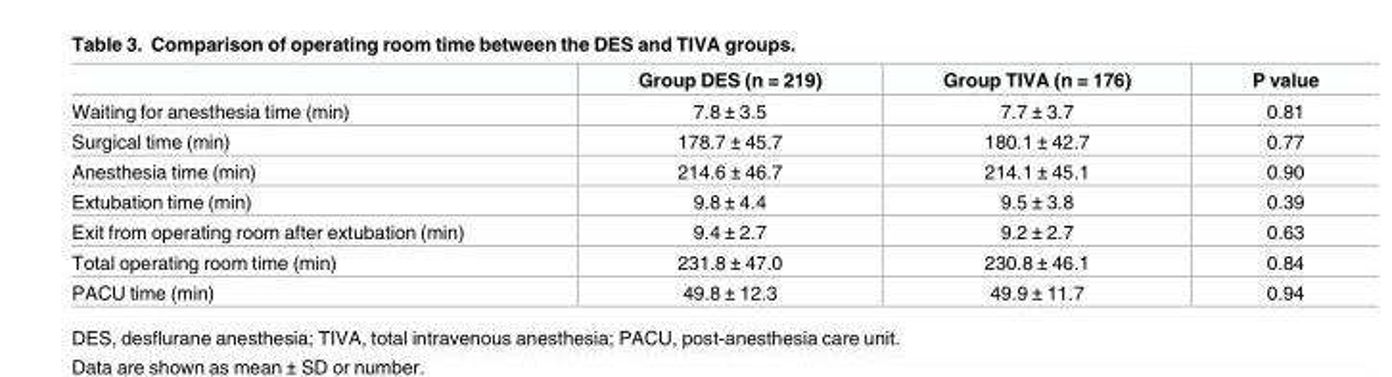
<table><thead><tr><td></td><td>Group DES (n = 219)</td><td>Group TIVA (n = 176)</td><td>P value</td></tr></thead><tbody><tr><td>Waiting for anesthesia time (min)</td><td>7.8 ± 3.5</td><td>7.7 ± 3.7</td><td>0.81</td></tr><tr><td>Surgical time (min)</td><td>178.7 ± 45.7</td><td>180.1 ± 42.7</td><td>0.77</td></tr><tr><td>Anesthesia time (min)</td><td>214.6 ± 46.7</td><td>214.1 ± 45.1</td><td>0.90</td></tr><tr><td>Extubation time (min)</td><td>9.8 ± 4.4</td><td>9.5 ± 3.8</td><td>0.39</td></tr><tr><td>Exit from operating room after extubation (min)</td><td>9.4 ± 2.7</td><td>9.2 ± 2.7</td><td>0.63</td></tr><tr><td>Total operating room time (min)</td><td>231.8 ± 47.0</td><td>230.8 ± 46.1</td><td>0.84</td></tr><tr><td>PACU time (min)</td><td>49.8 ± 12.3</td><td>49.9 ± 11.7</td><td>0.94</td></tr></tbody></table>